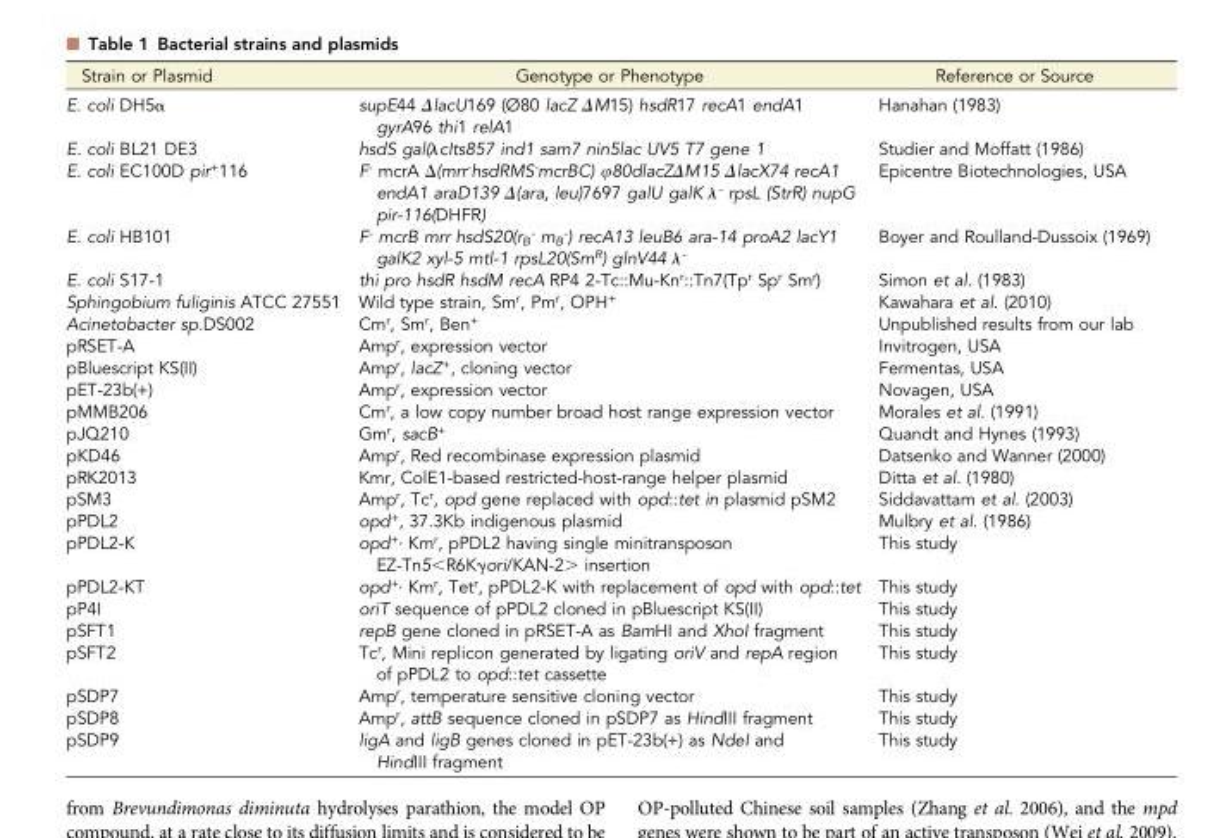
<table><thead><tr><td>Strain or Plasmid</td><td>Genotype or Phenotype</td><td>Reference or Source</td></tr></thead><tbody><tr><td>E. coli DH5α</td><td>supE44 ΔlacU169 (Ø80 lacZ ΔM15) hsdR17 recA1 endA1 gyrA96 thi1 relA1</td><td>Hanahan (1983)</td></tr><tr><td>E. coli BL21 DE3</td><td>hsdS gal(λcIts857 ind1 sam7 nin5lac UV5 T7 gene 1</td><td>Studier and Moffatt (1986)</td></tr><tr><td>E. coli EC100D pir<sup>+</sup>116</td><td>F<sup>-</sup> mcrA Δ(mrr<sup>-</sup>hsdRMS<sup>-</sup>mcrBC) ϕ80dlacZΔM15 ΔlacX74 recA1 endA1 araD139 Δ(ara, leu)7697 galU galK λ<sup>-</sup> rpsL (StrR) nupG pir-116(DHFR)</td><td>Epicentre Biotechnologies, USA</td></tr><tr><td>E. coli HB101</td><td>F<sup>-</sup> mcrB mrr hsdS20(r<sub>B</sub><sup>-</sup> m<sub>B</sub><sup>-</sup>) recA13 leuB6 ara-14 proA2 lacY1 galK2 xyl-5 mtl-1 rpsL20(Sm<sup>R</sup>) glnV44 λ<sup>-</sup></td><td>Boyer and Roulland-Dussoix (1969)</td></tr><tr><td>E. coli S17-1</td><td>thi pro hsdR hsdM recA RP4 2-Tc::Mu-Kn<sup>r</sup>::Tn7(Tp<sup>r</sup> Sp<sup>r</sup> Sm<sup>r</sup>)</td><td>Simon et al. (1983)</td></tr><tr><td>Sphingobium fuliginis ATCC 27551</td><td>Wild type strain, Sm<sup>r</sup>, Pm<sup>r</sup>, OPH<sup>+</sup></td><td>Kawahara et al. (2010)</td></tr><tr><td>Acinetobacter sp.DS002</td><td>Cm<sup>r</sup>, Sm<sup>r</sup>, Ben<sup>+</sup></td><td>Unpublished results from our lab</td></tr><tr><td>pRSET-A</td><td>Amp<sup>r</sup>, expression vector</td><td>Invitrogen, USA</td></tr><tr><td>pBluescript KS(II)</td><td>Amp<sup>r</sup>, lacZ<sup>+</sup>, cloning vector</td><td>Fermentas, USA</td></tr><tr><td>pET-23b(+)</td><td>Amp<sup>r</sup>, expression vector</td><td>Novagen, USA</td></tr><tr><td>pMMB206</td><td>Cm<sup>r</sup>, a low copy number broad host range expression vector</td><td>Morales et al. (1991)</td></tr><tr><td>pJQ210</td><td>Gm<sup>r</sup>, sacB<sup>+</sup></td><td>Quandt and Hynes (1993)</td></tr><tr><td>pKD46</td><td>Amp<sup>r</sup>, Red recombinase expression plasmid</td><td>Datsenko and Wanner (2000)</td></tr><tr><td>pRK2013</td><td>Kmr, ColE1-based restricted-host-range helper plasmid</td><td>Ditta et al. (1980)</td></tr><tr><td>pSM3</td><td>Amp<sup>r</sup>, Tc<sup>r</sup>, opd gene replaced with opd::tet in plasmid pSM2</td><td>Siddavattam et al. (2003)</td></tr><tr><td>pPDL2</td><td>opd<sup>+</sup>, 37.3Kb indigenous plasmid</td><td>Mulbry et al. (1986)</td></tr><tr><td>pPDL2-K</td><td>opd<sup>+,</sup> Km<sup>r</sup>, pPDL2 having single minitransposon EZ-Tn5&lt;R6Kγori/KAN-2&gt; insertion</td><td>This study</td></tr><tr><td>pPDL2-KT</td><td>opd<sup>+,</sup> Km<sup>r</sup>, Tet<sup>r</sup>, pPDL2-K with replacement of opd with opd::tet</td><td>This study</td></tr><tr><td>pP4I</td><td>oriT sequence of pPDL2 cloned in pBluescript KS(II)</td><td>This study</td></tr><tr><td>pSFT1</td><td>repB gene cloned in pRSET-A as BamHI and XhoI fragment</td><td>This study</td></tr><tr><td>pSFT2</td><td>Tc<sup>r</sup>, Mini replicon generated by ligating oriV and repA region of pPDL2 to opd::tet cassette</td><td>This study</td></tr><tr><td>pSDP7</td><td>Amp<sup>r</sup>, temperature sensitive cloning vector</td><td>This study</td></tr><tr><td>pSDP8</td><td>Amp<sup>r</sup>, attB sequence cloned in pSDP7 as HindIII fragment</td><td>This study</td></tr><tr><td>pSDP9</td><td>ligA and ligB genes cloned in pET-23b(+) as NdeI and HindIII fragment</td><td>This study</td></tr></tbody></table>